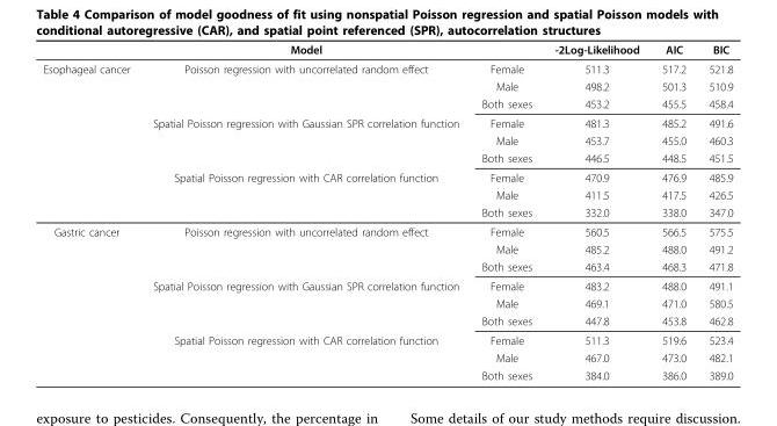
<table><thead><tr><td></td><td>Model</td><td></td><td>-2Log-Likelihood</td><td>AIC</td><td>BIC</td></tr></thead><tbody><tr><td rowspan="9">Esophageal cancer</td><td>Poisson regression with uncorrelated random effect</td><td>Female</td><td>511.3</td><td>517.2</td><td>521.8</td></tr><tr><td></td><td>Male</td><td>498.2</td><td>501.3</td><td>510.9</td></tr><tr><td></td><td>Both sexes</td><td>453.2</td><td>455.5</td><td>458.4</td></tr><tr><td>Spatial Poisson regression with Gaussian SPR correlation function</td><td>Female</td><td>481.3</td><td>485.2</td><td>491.6</td></tr><tr><td></td><td>Male</td><td>453.7</td><td>455.0</td><td>460.3</td></tr><tr><td></td><td>Both sexes</td><td>446.5</td><td>448.5</td><td>451.5</td></tr><tr><td>Spatial Poisson regression with CAR correlation function</td><td>Female</td><td>470.9</td><td>476.9</td><td>485.9</td></tr><tr><td></td><td>Male</td><td>411.5</td><td>417.5</td><td>426.5</td></tr><tr><td></td><td>Both sexes</td><td>332.0</td><td>338.0</td><td>347.0</td></tr><tr><td rowspan="9">Gastric cancer</td><td>Poisson regression with uncorrelated random effect</td><td>Female</td><td>560.5</td><td>566.5</td><td>575.5</td></tr><tr><td></td><td>Male</td><td>485.2</td><td>488.0</td><td>491.2</td></tr><tr><td></td><td>Both sexes</td><td>463.4</td><td>468.3</td><td>471.8</td></tr><tr><td>Spatial Poisson regression with Gaussian SPR correlation function</td><td>Female</td><td>483.2</td><td>488.0</td><td>491.1</td></tr><tr><td></td><td>Male</td><td>469.1</td><td>471.0</td><td>580.5</td></tr><tr><td></td><td>Both sexes</td><td>447.8</td><td>453.8</td><td>462.8</td></tr><tr><td>Spatial Poisson regression with CAR correlation function</td><td>Female</td><td>511.3</td><td>519.6</td><td>523.4</td></tr><tr><td></td><td>Male</td><td>467.0</td><td>473.0</td><td>482.1</td></tr><tr><td></td><td>Both sexes</td><td>384.0</td><td>386.0</td><td>389.0</td></tr></tbody></table>